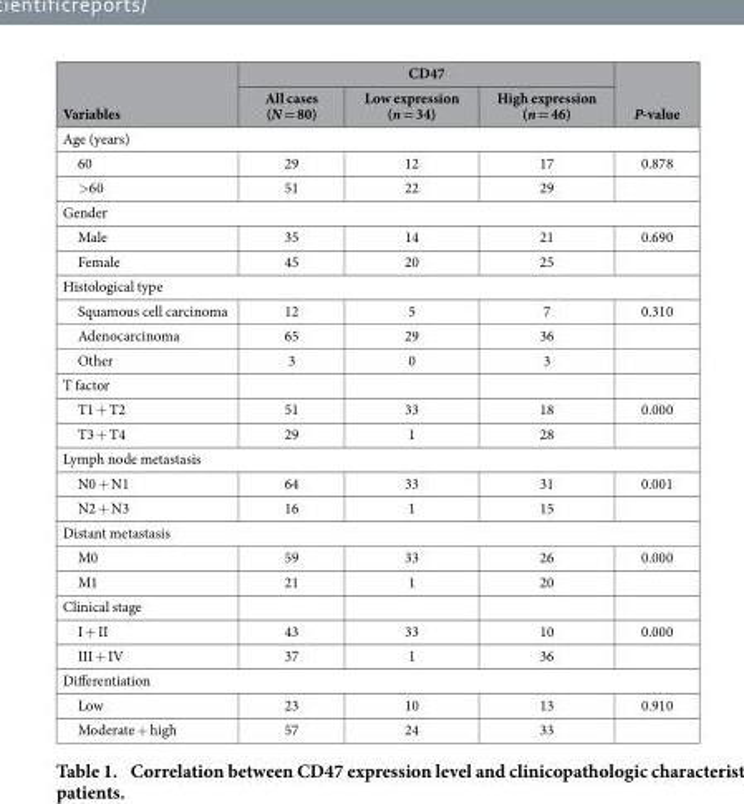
<table><thead><tr><td rowspan="2">Variables</td><td colspan="3">CD47</td><td rowspan="2">P-value</td></tr><tr><td>All cases (N = 80)</td><td>Low expression (n = 34)</td><td>High expression (n = 46)</td></tr></thead><tbody><tr><td colspan="5">Age (years)</td></tr><tr><td>60</td><td>29</td><td>12</td><td>17</td><td>0.878</td></tr><tr><td>&gt; 60</td><td>51</td><td>22</td><td>29</td><td></td></tr><tr><td colspan="5">Gender</td></tr><tr><td>Male</td><td>35</td><td>14</td><td>21</td><td>0.690</td></tr><tr><td>Female</td><td>45</td><td>20</td><td>25</td><td></td></tr><tr><td colspan="5">Histological type</td></tr><tr><td>Squamous cell carcinoma</td><td>12</td><td>5</td><td>7</td><td>0.310</td></tr><tr><td>Adenocarcinoma</td><td>65</td><td>29</td><td>36</td><td></td></tr><tr><td>Other</td><td>3</td><td>0</td><td>3</td><td></td></tr><tr><td colspan="5">T factor</td></tr><tr><td>T1 + T2</td><td>51</td><td>33</td><td>18</td><td>0.000</td></tr><tr><td>T3 + T4</td><td>29</td><td>1</td><td>28</td><td></td></tr><tr><td colspan="5">Lymph node metastasis</td></tr><tr><td>N0 + N1</td><td>64</td><td>33</td><td>31</td><td>0.001</td></tr><tr><td>N2 + N3</td><td>16</td><td>1</td><td>15</td><td></td></tr><tr><td colspan="5">Distant metastasis</td></tr><tr><td>M0</td><td>59</td><td>33</td><td>26</td><td>0.000</td></tr><tr><td>M1</td><td>21</td><td>1</td><td>20</td><td></td></tr><tr><td colspan="5">Clinical stage</td></tr><tr><td>I + II</td><td>43</td><td>33</td><td>10</td><td>0.000</td></tr><tr><td>III + IV</td><td>37</td><td>1</td><td>36</td><td></td></tr><tr><td colspan="5">Differentiation</td></tr><tr><td>Low</td><td>23</td><td>10</td><td>13</td><td>0.910</td></tr><tr><td>Moderate + high</td><td>57</td><td>24</td><td>33</td><td></td></tr></tbody></table>